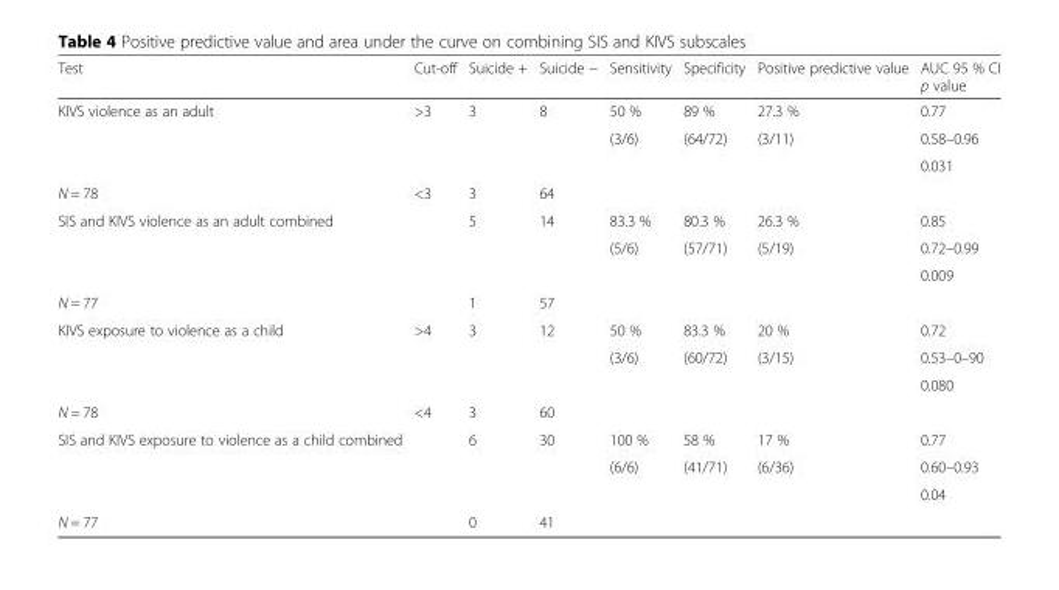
<table><thead><tr><td>Test</td><td>Cut-off</td><td>Suicide +</td><td>Suicide −</td><td>Sensitivity</td><td>Specificity</td><td>Positive predictive value</td><td>AUC 95 % CI p value</td></tr></thead><tbody><tr><td rowspan="3">KIVS violence as an adult</td><td>&gt;3</td><td>3</td><td>8</td><td>50 %</td><td>89 %</td><td>27.3 %</td><td>0.77</td></tr><tr><td></td><td></td><td></td><td>(3/6)</td><td>(64/72)</td><td>(3/11)</td><td>0.58–0.96</td></tr><tr><td></td><td></td><td></td><td></td><td></td><td></td><td>0.031</td></tr><tr><td>N = 78</td><td>&lt;3</td><td>3</td><td>64</td><td></td><td></td><td></td><td></td></tr><tr><td rowspan="3">SIS and KIVS violence as an adult combined</td><td></td><td>5</td><td>14</td><td>83.3 %</td><td>80.3 %</td><td>26.3 %</td><td>0.85</td></tr><tr><td></td><td></td><td></td><td>(5/6)</td><td>(57/71)</td><td>(5/19)</td><td>0.72–0.99</td></tr><tr><td></td><td></td><td></td><td></td><td></td><td></td><td>0.009</td></tr><tr><td>N = 77</td><td></td><td>1</td><td>57</td><td></td><td></td><td></td><td></td></tr><tr><td rowspan="3">KIVS exposure to violence as a child</td><td>&gt;4</td><td>3</td><td>12</td><td>50 %</td><td>83.3 %</td><td>20 %</td><td>0.72</td></tr><tr><td></td><td></td><td></td><td>(3/6)</td><td>(60/72)</td><td>(3/15)</td><td>0.53–0–90</td></tr><tr><td></td><td></td><td></td><td></td><td></td><td></td><td>0.080</td></tr><tr><td>N = 78</td><td>&lt;4</td><td>3</td><td>60</td><td></td><td></td><td></td><td></td></tr><tr><td rowspan="3">SIS and KIVS exposure to violence as a child combined</td><td></td><td>6</td><td>30</td><td>100 %</td><td>58 %</td><td>17 %</td><td>0.77</td></tr><tr><td></td><td></td><td></td><td>(6/6)</td><td>(41/71)</td><td>(6/36)</td><td>0.60–0.93</td></tr><tr><td></td><td></td><td></td><td></td><td></td><td></td><td>0.04</td></tr><tr><td>N = 77</td><td></td><td>0</td><td>41</td><td></td><td></td><td></td><td></td></tr></tbody></table>